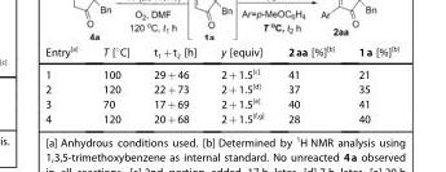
<table><thead><tr><td>Entry<sup>[a]</sup></td><td>T [°C]</td><td>t<sub>1</sub>+t<sub>2</sub> [h]</td><td>y [equiv]</td><td>2aa [%]<sup>[b]</sup></td><td>1a [%]<sup>[b]</sup></td></tr></thead><tbody><tr><td>1</td><td>100</td><td>29+46</td><td>2+1.5<sup>[c]</sup></td><td>41</td><td>21</td></tr><tr><td>2</td><td>120</td><td>22+73</td><td>2+1.5<sup>[d]</sup></td><td>37</td><td>35</td></tr><tr><td>3</td><td>70</td><td>17+69</td><td>2+1.5<sup>[e]</sup></td><td>40</td><td>41</td></tr><tr><td>4</td><td>120</td><td>20+68</td><td>2+1.5<sup>[f,g]</sup></td><td>28</td><td>40</td></tr></tbody></table>